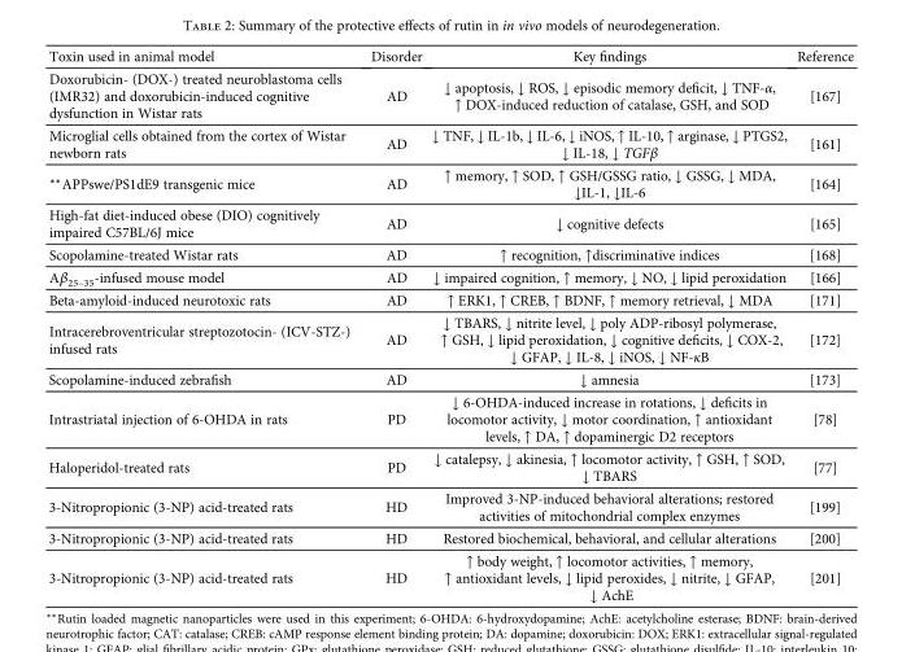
<table><thead><tr><td>Toxin used in animal model</td><td>Disorder</td><td>Key findings</td><td>Reference</td></tr></thead><tbody><tr><td>Doxorubicin- (DOX-) treated neuroblastoma cells (IMR32) and doxorubicin-induced cognitive dysfunction in Wistar rats</td><td>AD</td><td>↓ apoptosis, ↓ ROS, ↓ episodic memory deficit, ↓ TNF-α, ↑ DOX-induced reduction of catalase, GSH, and SOD</td><td>[167]</td></tr><tr><td>Microglial cells obtained from the cortex of Wistar newborn rats</td><td>AD</td><td>↓ TNF, ↓ IL-1b, ↓ IL-6, ↓ iNOS, ↑ IL-10, ↑ arginase, ↓ PTGS2, ↓ IL-18, ↓ TGFβ</td><td>[161]</td></tr><tr><td>∗∗APPswe/PS1dE9 transgenic mice</td><td>AD</td><td>↑ memory, ↑ SOD, ↑ GSH/GSSG ratio, ↓ GSSG, ↓ MDA, ↓IL-1, ↓IL-6</td><td>[164]</td></tr><tr><td>High-fat diet-induced obese (DIO) cognitively impaired C57BL/6J mice</td><td>AD</td><td>↓ cognitive defects</td><td>[165]</td></tr><tr><td>Scopolamine-treated Wistar rats</td><td>AD</td><td>↑ recognition, ↑discriminative indices</td><td>[168]</td></tr><tr><td>Aβ<sub>25–35</sub>-infused mouse model</td><td>AD</td><td>↓ impaired cognition, ↑ memory, ↓ NO, ↓ lipid peroxidation</td><td>[166]</td></tr><tr><td>Beta-amyloid-induced neurotoxic rats</td><td>AD</td><td>↑ ERK1, ↑ CREB, ↑ BDNF, ↑ memory retrieval, ↓ MDA</td><td>[171]</td></tr><tr><td>Intracerebroventricular streptozotocin- (ICV-STZ-) infused rats</td><td>AD</td><td>↓ TBARS, ↓ nitrite level, ↓ poly ADP-ribosyl polymerase, ↑ GSH, ↓ lipid peroxidation, ↓ cognitive deficits, ↓ COX-2, ↓ GFAP, ↓ IL-8, ↓ iNOS, ↓ NF-κB</td><td>[172]</td></tr><tr><td>Scopolamine-induced zebrafish</td><td>AD</td><td>↓ amnesia</td><td>[173]</td></tr><tr><td>Intrastriatal injection of 6-OHDA in rats</td><td>PD</td><td>↓ 6-OHDA-induced increase in rotations, ↓ deficits in locomotor activity, ↓ motor coordination, ↑ antioxidant levels, ↑ DA, ↑ dopaminergic D2 receptors</td><td>[78]</td></tr><tr><td>Haloperidol-treated rats</td><td>PD</td><td>↓ catalepsy, ↓ akinesia, ↑ locomotor activity, ↑ GSH, ↑ SOD, ↓ TBARS</td><td>[77]</td></tr><tr><td>3-Nitropropionic (3-NP) acid-treated rats</td><td>HD</td><td>Improved 3-NP-induced behavioral alterations; restored activities of mitochondrial complex enzymes</td><td>[199]</td></tr><tr><td>3-Nitropropionic (3-NP) acid-treated rats</td><td>HD</td><td>Restored biochemical, behavioral, and cellular alterations</td><td>[200]</td></tr><tr><td>3-Nitropropionic (3-NP) acid-treated rats</td><td>HD</td><td>↑ body weight, ↑ locomotor activities, ↑ memory, ↑ antioxidant levels, ↓ lipid peroxides, ↓ nitrite, ↓ GFAP, ↓ AchE</td><td>[201]</td></tr></tbody></table>